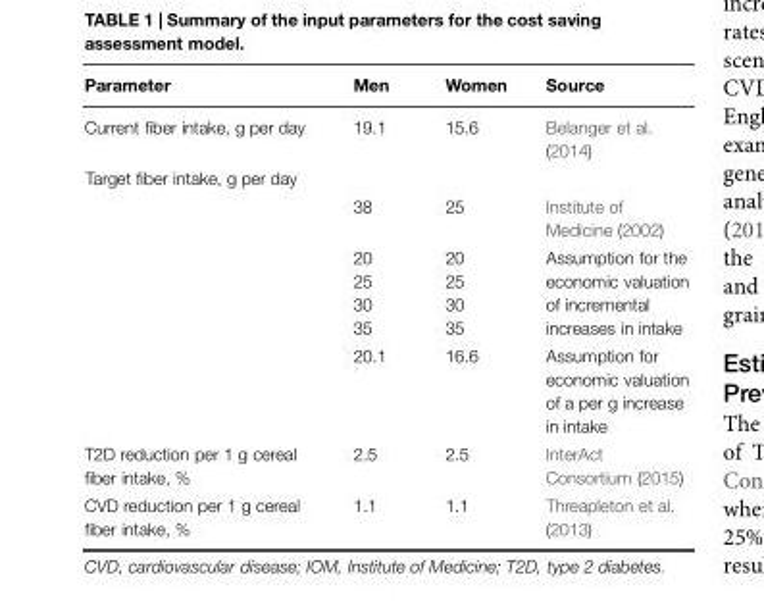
<table><thead><tr><td>Parameter</td><td>Men</td><td>Women</td><td>Source</td></tr></thead><tbody><tr><td>Current fiber intake, g per day</td><td>19.1</td><td>15.6</td><td>Belanger et al. (2014)</td></tr><tr><td colspan="4">Target fiber intake, g per day</td></tr><tr><td></td><td>38</td><td>25</td><td>Institute of Medicine (2002)</td></tr><tr><td></td><td>20 25 30 35</td><td>20 25 30 35</td><td>Assumption for the economic valuation of incremental increases in intake</td></tr><tr><td></td><td>20.1</td><td>16.6</td><td>Assumption for economic valuation of a per g increase in intake</td></tr><tr><td>T2D reduction per 1 g cereal fiber intake, %</td><td>2.5</td><td>2.5</td><td>InterAct Consortium (2015)</td></tr><tr><td>CVD reduction per 1 g cereal fiber intake, %</td><td>1.1</td><td>1.1</td><td>Threapleton et al. (2013)</td></tr></tbody></table>